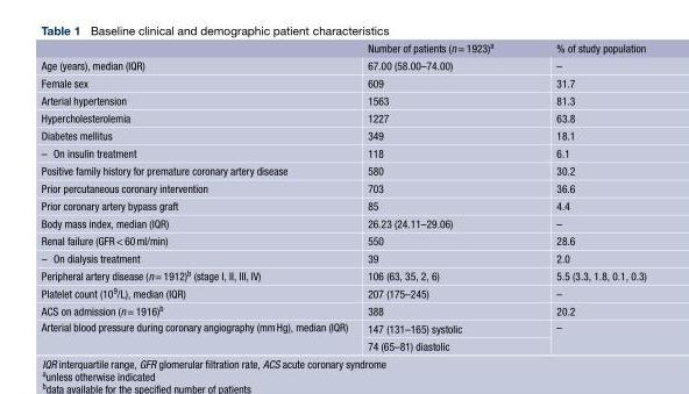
<table><thead><tr><td></td><td>Number of patients (n= 1923)<sup>a</sup></td><td>% of study population</td></tr></thead><tbody><tr><td>Age (years), median (IQR)</td><td>67.00 (58.00–74.00)</td><td>–</td></tr><tr><td>Female sex</td><td>609</td><td>31.7</td></tr><tr><td>Arterial hypertension</td><td>1563</td><td>81.3</td></tr><tr><td>Hypercholesterolemia</td><td>1227</td><td>63.8</td></tr><tr><td>Diabetes mellitus</td><td>349</td><td>18.1</td></tr><tr><td>– On insulin treatment</td><td>118</td><td>6.1</td></tr><tr><td>Positive family history for premature coronary artery disease</td><td>580</td><td>30.2</td></tr><tr><td>Prior percutaneous coronary intervention</td><td>703</td><td>36.6</td></tr><tr><td>Prior coronary artery bypass graft</td><td>85</td><td>4.4</td></tr><tr><td>Body mass index, median (IQR)</td><td>26.23 (24.11–29.06)</td><td>–</td></tr><tr><td>Renal failure (GFR&lt; 60ml/min)</td><td>550</td><td>28.6</td></tr><tr><td>– On dialysis treatment</td><td>39</td><td>2.0</td></tr><tr><td>Peripheral artery disease (n= 1912)<sup>b</sup> (stage I, II, III, IV)</td><td>106 (63, 35, 2, 6)</td><td>5.5 (3.3, 1.8, 0.1, 0.3)</td></tr><tr><td>Platelet count (10<sup>9</sup>/L), median (IQR)</td><td>207 (175–245)</td><td>–</td></tr><tr><td>ACS on admission (n= 1916)<sup>b</sup></td><td>388</td><td>20.2</td></tr><tr><td rowspan="2">Arterial blood pressure during coronary angiography (mmHg), median (IQR)</td><td>147 (131–165) systolic</td><td rowspan="2">–</td></tr><tr><td>74 (65–81) diastolic</td></tr></tbody></table>